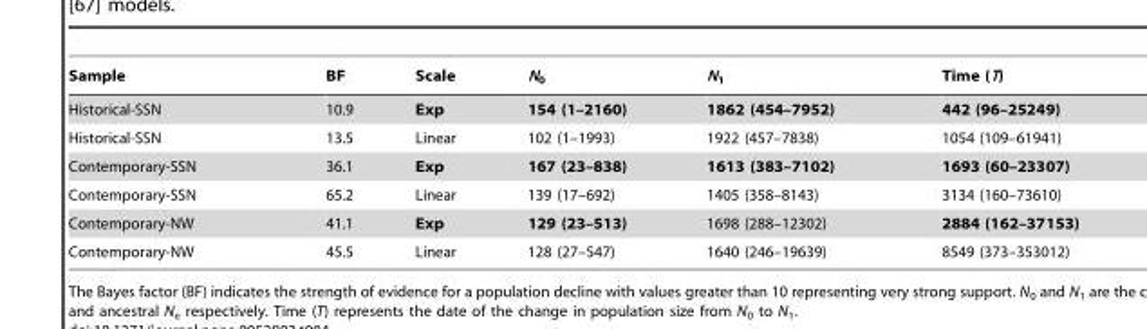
<table><thead><tr><td>Sample</td><td>BF</td><td>Scale</td><td>N<sub>0</sub></td><td>N<sub>1</sub></td><td>Time (T)</td></tr></thead><tbody><tr><td>Historical-SSN</td><td>10.9</td><td>Exp</td><td>154 (1–2160)</td><td>1862 (454–7952)</td><td>442 (96–25249)</td></tr><tr><td>Historical-SSN</td><td>13.5</td><td>Linear</td><td>102 (1–1993)</td><td>1922 (457–7838)</td><td>1054 (109–61941)</td></tr><tr><td>Contemporary-SSN</td><td>36.1</td><td>Exp</td><td>167 (23–838)</td><td>1613 (383–7102)</td><td>1693 (60–23307)</td></tr><tr><td>Contemporary-SSN</td><td>65.2</td><td>Linear</td><td>139 (17–692)</td><td>1405 (358–8143)</td><td>3134 (160–73610)</td></tr><tr><td>Contemporary-NW</td><td>41.1</td><td>Exp</td><td>129 (23–513)</td><td>1698 (288–12302)</td><td>2884 (162–37153)</td></tr><tr><td>Contemporary-NW</td><td>45.5</td><td>Linear</td><td>128 (27–547)</td><td>1640 (246–19639)</td><td>8549 (373–353012)</td></tr></tbody></table>